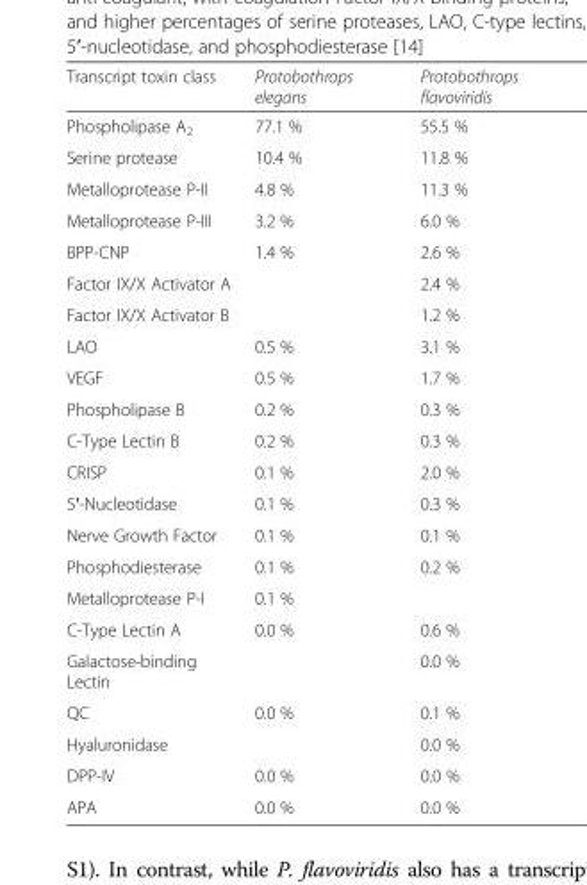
<table><thead><tr><td>Transcript toxin class</td><td>Protobothrops elegans</td><td>Protobothrops flavoviridis</td></tr></thead><tbody><tr><td>Phospholipase A<sub>2</sub></td><td>77.1 %</td><td>55.5 %</td></tr><tr><td>Serine protease</td><td>10.4 %</td><td>11.8 %</td></tr><tr><td>Metalloprotease P-II</td><td>4.8 %</td><td>11.3 %</td></tr><tr><td>Metalloprotease P-III</td><td>3.2 %</td><td>6.0 %</td></tr><tr><td>BPP-CNP</td><td>1.4 %</td><td>2.6 %</td></tr><tr><td>Factor IX/X Activator A</td><td></td><td>2.4 %</td></tr><tr><td>Factor IX/X Activator B</td><td></td><td>1.2 %</td></tr><tr><td>LAO</td><td>0.5 %</td><td>3.1 %</td></tr><tr><td>VEGF</td><td>0.5 %</td><td>1.7 %</td></tr><tr><td>Phospholipase B</td><td>0.2 %</td><td>0.3 %</td></tr><tr><td>C-Type Lectin B</td><td>0.2 %</td><td>0.3 %</td></tr><tr><td>CRISP</td><td>0.1 %</td><td>2.0 %</td></tr><tr><td>5′-Nucleotidase</td><td>0.1 %</td><td>0.3 %</td></tr><tr><td>Nerve Growth Factor</td><td>0.1 %</td><td>0.1 %</td></tr><tr><td>Phosphodiesterase</td><td>0.1 %</td><td>0.2 %</td></tr><tr><td>Metalloprotease P-I</td><td>0.1 %</td><td></td></tr><tr><td>C-Type Lectin A</td><td>0.0 %</td><td>0.6 %</td></tr><tr><td>Galactose-binding Lectin</td><td></td><td>0.0 %</td></tr><tr><td>QC</td><td>0.0 %</td><td>0.1 %</td></tr><tr><td>Hyaluronidase</td><td></td><td>0.0 %</td></tr><tr><td>DPP-IV</td><td>0.0 %</td><td>0.0 %</td></tr><tr><td>APA</td><td>0.0 %</td><td>0.0 %</td></tr></tbody></table>